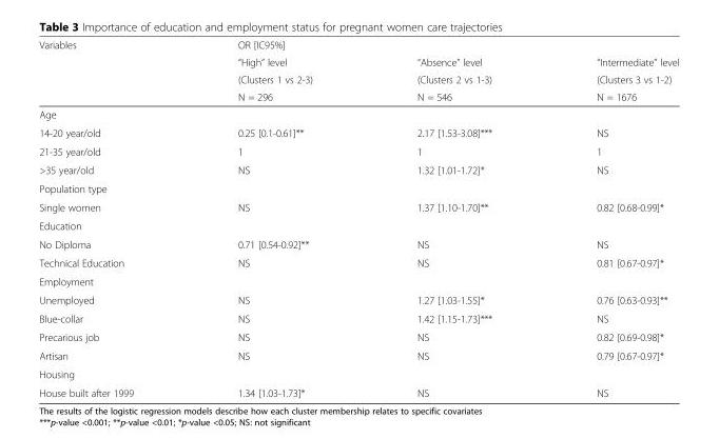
<table><thead><tr><td rowspan="4">Variables</td><td colspan="3">OR [IC95%]</td></tr><tr><td rowspan="3">“High” level (Clusters 1 vs 2-3) N = 296</td><td rowspan="3">“Absence” level (Clusters 2 vs 1-3) N = 546</td><td rowspan="3">“Intermediate” level (Clusters 3 vs 1-2) N = 1676</td></tr><tr></tr><tr></tr></thead><tbody><tr><td colspan="4">Age</td></tr><tr><td>14-20 year/old</td><td>0.25 [0.1-0.61]**</td><td>2.17 [1.53-3.08]***</td><td>NS</td></tr><tr><td>21-35 year/old</td><td>1</td><td>1</td><td>1</td></tr><tr><td>&gt;35 year/old</td><td>NS</td><td>1.32 [1.01-1.72]*</td><td>NS</td></tr><tr><td colspan="4">Population type</td></tr><tr><td>Single women</td><td>NS</td><td>1.37 [1.10-1.70]**</td><td>0.82 [0.68-0.99]*</td></tr><tr><td colspan="4">Education</td></tr><tr><td>No Diploma</td><td>0.71 [0.54-0.92]**</td><td>NS</td><td>NS</td></tr><tr><td>Technical Education</td><td>NS</td><td>NS</td><td>0.81 [0.67-0.97]*</td></tr><tr><td colspan="4">Employment</td></tr><tr><td>Unemployed</td><td>NS</td><td>1.27 [1.03-1.55]*</td><td>0.76 [0.63-0.93]**</td></tr><tr><td>Blue-collar</td><td>NS</td><td>1.42 [1.15-1.73]***</td><td>NS</td></tr><tr><td>Precarious job</td><td>NS</td><td>NS</td><td>0.82 [0.69-0.98]*</td></tr><tr><td>Artisan</td><td>NS</td><td>NS</td><td>0.79 [0.67-0.97]*</td></tr><tr><td colspan="4">Housing</td></tr><tr><td>House built after 1999</td><td>1.34 [1.03-1.73]*</td><td>NS</td><td>NS</td></tr></tbody></table>